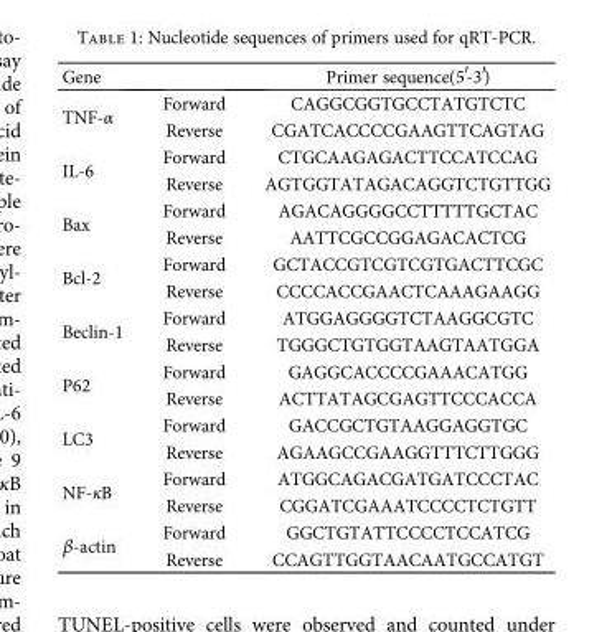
<table><thead><tr><td>Gene</td><td></td><td>Primer sequence(5′-3′)</td></tr></thead><tbody><tr><td rowspan="2">TNF-α</td><td>Forward</td><td>CAGGCGGTGCCTATGTCTC</td></tr><tr><td>Reverse</td><td>CGATCACCCCGAAGTTCAGTAG</td></tr><tr><td rowspan="2">IL-6</td><td>Forward</td><td>CTGCAAGAGACTTCCATCCAG</td></tr><tr><td>Reverse</td><td>AGTGGTATAGACAGGTCTGTTGG</td></tr><tr><td rowspan="2">Bax</td><td>Forward</td><td>AGACAGGGGCCTTTTTGCTAC</td></tr><tr><td>Reverse</td><td>AATTCGCCGGAGACACTCG</td></tr><tr><td rowspan="2">Bcl-2</td><td>Forward</td><td>GCTACCGTCGTCGTGACTTCGC</td></tr><tr><td>Reverse</td><td>CCCCACCGAACTCAAAGAAGG</td></tr><tr><td rowspan="2">Beclin-1</td><td>Forward</td><td>ATGGAGGGGTCTAAGGCGTC</td></tr><tr><td>Reverse</td><td>TGGGCTGTGGTAAGTAATGGA</td></tr><tr><td rowspan="2">P62</td><td>Forward</td><td>GAGGCACCCCGAAACATGG</td></tr><tr><td>Reverse</td><td>ACTTATAGCGAGTTCCCACCA</td></tr><tr><td rowspan="2">LC3</td><td>Forward</td><td>GACCGCTGTAAGGAGGTGC</td></tr><tr><td>Reverse</td><td>AGAAGCCGAAGGTTTCTTGGG</td></tr><tr><td rowspan="2">NF-κB</td><td>Forward</td><td>ATGGCAGACGATGATCCCTAC</td></tr><tr><td>Reverse</td><td>CGGATCGAAATCCCCTCTGTT</td></tr><tr><td rowspan="2">β-actin</td><td>Forward</td><td>GGCTGTATTCCCCTCCATCG</td></tr><tr><td>Reverse</td><td>CCAGTTGGTAACAATGCCATGT</td></tr></tbody></table>